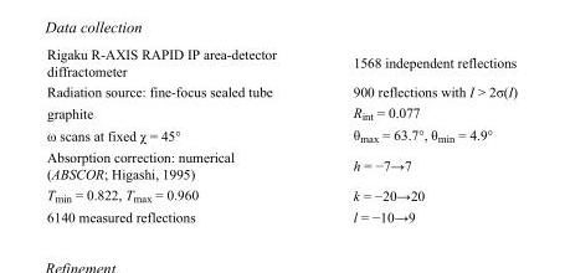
<table><tbody><tr><td>Rigaku R-AXIS RAPID IP area-detector diffractometer</td><td>1568 independent reflections</td></tr><tr><td>Radiation source: fine-focus sealed tube</td><td>900 reflections with I &gt; 2σ(I)</td></tr><tr><td>graphite</td><td>R<sub>int</sub> = 0.077</td></tr><tr><td>ω scans at fixed χ = 45°</td><td>θ<sub>max</sub> = 63.7°, θ<sub>min</sub> = 4.9°</td></tr><tr><td>Absorption correction: numerical (ABSCOR; Higashi, 1995)</td><td>h = −7→7</td></tr><tr><td>T<sub>min</sub> = 0.822, T<sub>max</sub> = 0.960</td><td>k = −20→20</td></tr><tr><td>6140 measured reflections</td><td>l = −10→9</td></tr></tbody></table>